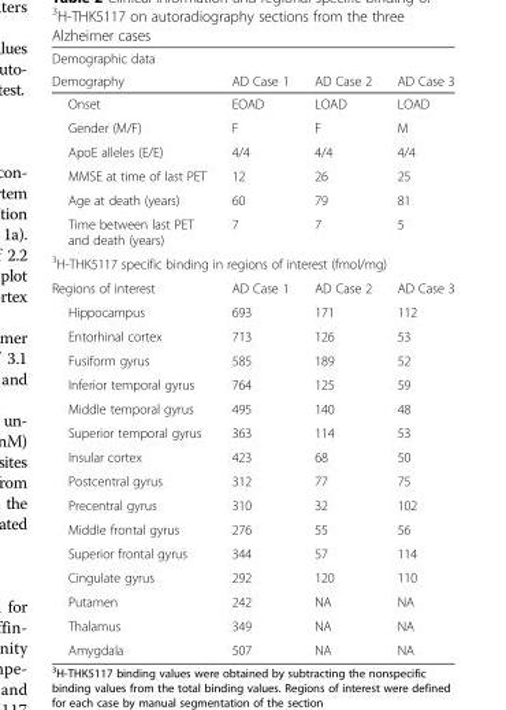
<table><thead><tr><td colspan="4">Demographic data</td></tr><tr><td>Demography</td><td>AD Case 1</td><td>AD Case 2</td><td>AD Case 3</td></tr></thead><tbody><tr><td>Onset</td><td>EOAD</td><td>LOAD</td><td>LOAD</td></tr><tr><td>Gender (M/F)</td><td>F</td><td>F</td><td>M</td></tr><tr><td>ApoE alleles (E/E)</td><td>4/4</td><td>4/4</td><td>4/4</td></tr><tr><td>MMSE at time of last PET</td><td>12</td><td>26</td><td>25</td></tr><tr><td>Age at death (years)</td><td>60</td><td>79</td><td>81</td></tr><tr><td>Time between last PET and death (years)</td><td>7</td><td>7</td><td>5</td></tr><tr><td colspan="4"><sup>3</sup>H-THK5117 specific binding in regions of interest (fmol/mg)</td></tr><tr><td>Regions of interest</td><td>AD Case 1</td><td>AD Case 2</td><td>AD Case 3</td></tr><tr><td>Hippocampus</td><td>693</td><td>171</td><td>112</td></tr><tr><td>Entorhinal cortex</td><td>713</td><td>126</td><td>53</td></tr><tr><td>Fusiform gyrus</td><td>585</td><td>189</td><td>52</td></tr><tr><td>Inferior temporal gyrus</td><td>764</td><td>125</td><td>59</td></tr><tr><td>Middle temporal gyrus</td><td>495</td><td>140</td><td>48</td></tr><tr><td>Superior temporal gyrus</td><td>363</td><td>114</td><td>53</td></tr><tr><td>Insular cortex</td><td>423</td><td>68</td><td>50</td></tr><tr><td>Postcentral gyrus</td><td>312</td><td>77</td><td>75</td></tr><tr><td>Precentral gyrus</td><td>310</td><td>32</td><td>102</td></tr><tr><td>Middle frontal gyrus</td><td>276</td><td>55</td><td>56</td></tr><tr><td>Superior frontal gyrus</td><td>344</td><td>57</td><td>114</td></tr><tr><td>Cingulate gyrus</td><td>292</td><td>120</td><td>110</td></tr><tr><td>Putamen</td><td>242</td><td>NA</td><td>NA</td></tr><tr><td>Thalamus</td><td>349</td><td>NA</td><td>NA</td></tr><tr><td>Amygdala</td><td>507</td><td>NA</td><td>NA</td></tr></tbody></table>